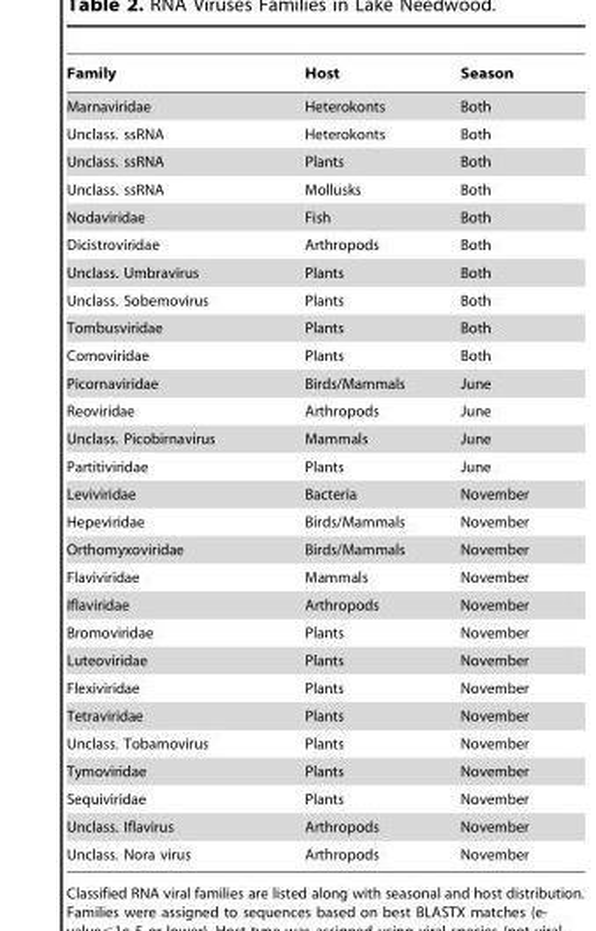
<table><thead><tr><td>Family</td><td>Host</td><td>Season</td></tr></thead><tbody><tr><td>Marnaviridae</td><td>Heterokonts</td><td>Both</td></tr><tr><td>Unclass. ssRNA</td><td>Heterokonts</td><td>Both</td></tr><tr><td>Unclass. ssRNA</td><td>Plants</td><td>Both</td></tr><tr><td>Unclass. ssRNA</td><td>Mollusks</td><td>Both</td></tr><tr><td>Nodaviridae</td><td>Fish</td><td>Both</td></tr><tr><td>Dicistroviridae</td><td>Arthropods</td><td>Both</td></tr><tr><td>Unclass. Umbravirus</td><td>Plants</td><td>Both</td></tr><tr><td>Unclass. Sobemovirus</td><td>Plants</td><td>Both</td></tr><tr><td>Tombusviridae</td><td>Plants</td><td>Both</td></tr><tr><td>Comoviridae</td><td>Plants</td><td>Both</td></tr><tr><td>Picornaviridae</td><td>Birds/Mammals</td><td>June</td></tr><tr><td>Reoviridae</td><td>Arthropods</td><td>June</td></tr><tr><td>Unclass. Picobirnavirus</td><td>Mammals</td><td>June</td></tr><tr><td>Partitiviridae</td><td>Plants</td><td>June</td></tr><tr><td>Leviviridae</td><td>Bacteria</td><td>November</td></tr><tr><td>Hepeviridae</td><td>Birds/Mammals</td><td>November</td></tr><tr><td>Orthomyxoviridae</td><td>Birds/Mammals</td><td>November</td></tr><tr><td>Flaviviridae</td><td>Mammals</td><td>November</td></tr><tr><td>Iflaviridae</td><td>Arthropods</td><td>November</td></tr><tr><td>Bromoviridae</td><td>Plants</td><td>November</td></tr><tr><td>Luteoviridae</td><td>Plants</td><td>November</td></tr><tr><td>Flexiviridae</td><td>Plants</td><td>November</td></tr><tr><td>Tetraviridae</td><td>Plants</td><td>November</td></tr><tr><td>Unclass. Tobamovirus</td><td>Plants</td><td>November</td></tr><tr><td>Tymoviridae</td><td>Plants</td><td>November</td></tr><tr><td>Sequiviridae</td><td>Plants</td><td>November</td></tr><tr><td>Unclass. Iflavirus</td><td>Arthropods</td><td>November</td></tr><tr><td>Unclass. Nora virus</td><td>Arthropods</td><td>November</td></tr></tbody></table>